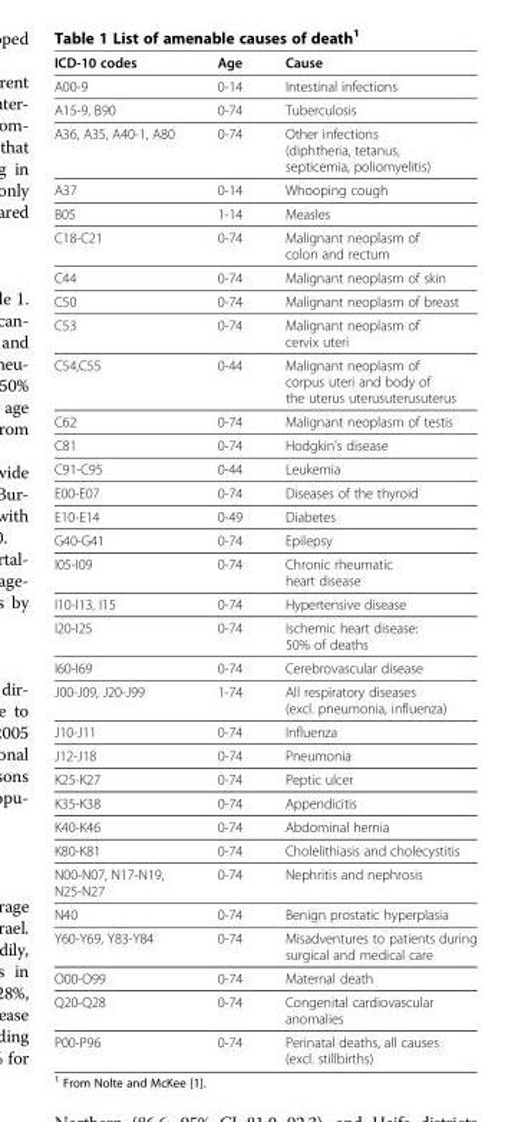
<table><thead><tr><td>ICD-10 codes</td><td>Age</td><td>Cause</td></tr></thead><tbody><tr><td>A00-9</td><td>0-14</td><td>Intestinal infections</td></tr><tr><td>A15-9, B90</td><td>0-74</td><td>Tuberculosis</td></tr><tr><td>A36, A35, A40-1, A80</td><td>0-74</td><td>Other infections (diphtheria, tetanus, septicemia, poliomyelitis)</td></tr><tr><td>A37</td><td>0-14</td><td>Whooping cough</td></tr><tr><td>B05</td><td>1-14</td><td>Measles</td></tr><tr><td>C18-C21</td><td>0-74</td><td>Malignant neoplasm of colon and rectum</td></tr><tr><td>C44</td><td>0-74</td><td>Malignant neoplasm of skin</td></tr><tr><td>C50</td><td>0-74</td><td>Malignant neoplasm of breast</td></tr><tr><td>C53</td><td>0-74</td><td>Malignant neoplasm of cervix uteri</td></tr><tr><td>C54,C55</td><td>0-44</td><td>Malignant neoplasm of corpus uteri and body of the uterus uterusuterusuterus</td></tr><tr><td>C62</td><td>0-74</td><td>Malignant neoplasm of testis</td></tr><tr><td>C81</td><td>0-74</td><td>Hodgkin’s disease</td></tr><tr><td>C91-C95</td><td>0-44</td><td>Leukemia</td></tr><tr><td>E00-E07</td><td>0-74</td><td>Diseases of the thyroid</td></tr><tr><td>E10-E14</td><td>0-49</td><td>Diabetes</td></tr><tr><td>G40-G41</td><td>0-74</td><td>Epilepsy</td></tr><tr><td>I05-I09</td><td>0-74</td><td>Chronic rheumatic heart disease</td></tr><tr><td>I10-I13, I15</td><td>0-74</td><td>Hypertensive disease</td></tr><tr><td>I20-I25</td><td>0-74</td><td>Ischemic heart disease: 50% of deaths</td></tr><tr><td>I60-I69</td><td>0-74</td><td>Cerebrovascular disease</td></tr><tr><td>J00-J09, J20-J99</td><td>1-74</td><td>All respiratory diseases (excl. pneumonia, influenza)</td></tr><tr><td>J10-J11</td><td>0-74</td><td>Influenza</td></tr><tr><td>J12-J18</td><td>0-74</td><td>Pneumonia</td></tr><tr><td>K25-K27</td><td>0-74</td><td>Peptic ulcer</td></tr><tr><td>K35-K38</td><td>0-74</td><td>Appendicitis</td></tr><tr><td>K40-K46</td><td>0-74</td><td>Abdominal hernia</td></tr><tr><td>K80-K81</td><td>0-74</td><td>Cholelithiasis and cholecystitis</td></tr><tr><td>N00-N07, N17-N19, N25-N27</td><td>0-74</td><td>Nephritis and nephrosis</td></tr><tr><td>N40</td><td>0-74</td><td>Benign prostatic hyperplasia</td></tr><tr><td>Y60-Y69, Y83-Y84</td><td>0-74</td><td>Misadventures to patients during surgical and medical care</td></tr><tr><td>O00-O99</td><td>0-74</td><td>Maternal death</td></tr><tr><td>Q20-Q28</td><td>0-74</td><td>Congenital cardiovascular anomalies</td></tr><tr><td>P00-P96</td><td>0-74</td><td>Perinatal deaths, all causes (excl. stillbirths)</td></tr></tbody></table>